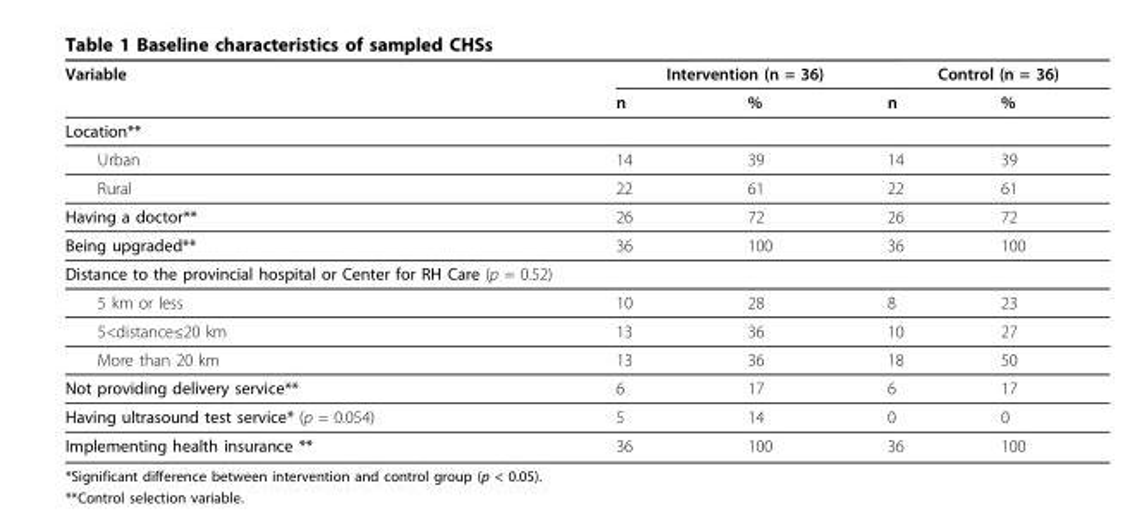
<table><thead><tr><td rowspan="2">Variable</td><td colspan="2">Intervention (n = 36)</td><td colspan="2">Control (n = 36)</td></tr><tr><td>n</td><td>%</td><td>n</td><td>%</td></tr></thead><tbody><tr><td colspan="5">Location**</td></tr><tr><td>Urban</td><td>14</td><td>39</td><td>14</td><td>39</td></tr><tr><td>Rural</td><td>22</td><td>61</td><td>22</td><td>61</td></tr><tr><td>Having a doctor**</td><td>26</td><td>72</td><td>26</td><td>72</td></tr><tr><td>Being upgraded**</td><td>36</td><td>100</td><td>36</td><td>100</td></tr><tr><td colspan="5">Distance to the provincial hospital or Center for RH Care (p = 0.52)</td></tr><tr><td>5 km or less</td><td>10</td><td>28</td><td>8</td><td>23</td></tr><tr><td>5&lt;distance≤20 km</td><td>13</td><td>36</td><td>10</td><td>27</td></tr><tr><td>More than 20 km</td><td>13</td><td>36</td><td>18</td><td>50</td></tr><tr><td>Not providing delivery service**</td><td>6</td><td>17</td><td>6</td><td>17</td></tr><tr><td>Having ultrasound test service* (p = 0.054)</td><td>5</td><td>14</td><td>0</td><td>0</td></tr><tr><td>Implementing health insurance **</td><td>36</td><td>100</td><td>36</td><td>100</td></tr></tbody></table>